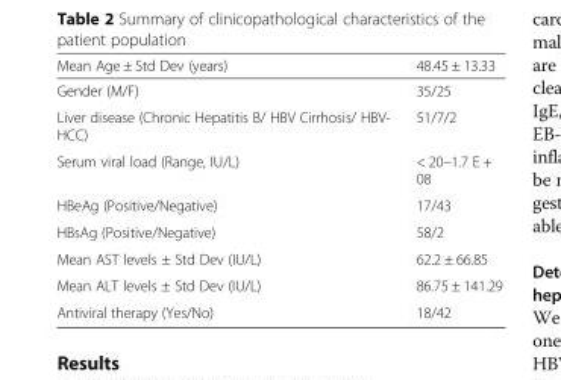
<table><thead><tr><td>Mean Age ± Std Dev (years)</td><td>48.45 ± 13.33</td></tr></thead><tbody><tr><td>Gender (M/F)</td><td>35/25</td></tr><tr><td>Liver disease (Chronic Hepatitis B/ HBV Cirrhosis/ HBV- HCC)</td><td>51/7/2</td></tr><tr><td>Serum viral load (Range, IU/L)</td><td>&lt; 20–1.7 E + 08</td></tr><tr><td>HBeAg (Positive/Negative)</td><td>17/43</td></tr><tr><td>HBsAg (Positive/Negative)</td><td>58/2</td></tr><tr><td>Mean AST levels ± Std Dev (IU/L)</td><td>62.2 ± 66.85</td></tr><tr><td>Mean ALT levels ± Std Dev (IU/L)</td><td>86.75 ± 141.29</td></tr><tr><td>Antiviral therapy (Yes/No)</td><td>18/42</td></tr></tbody></table>